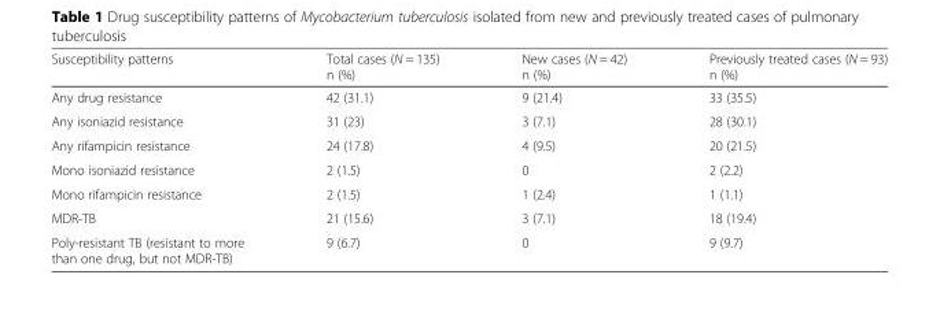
<table><thead><tr><td>Susceptibility patterns</td><td>Total cases (N = 135) n (%)</td><td>New cases (N = 42) n (%)</td><td>Previously treated cases (N = 93) n (%)</td></tr></thead><tbody><tr><td>Any drug resistance</td><td>42 (31.1)</td><td>9 (21.4)</td><td>33 (35.5)</td></tr><tr><td>Any isoniazid resistance</td><td>31 (23)</td><td>3 (7.1)</td><td>28 (30.1)</td></tr><tr><td>Any rifampicin resistance</td><td>24 (17.8)</td><td>4 (9.5)</td><td>20 (21.5)</td></tr><tr><td>Mono isoniazid resistance</td><td>2 (1.5)</td><td>0</td><td>2 (2.2)</td></tr><tr><td>Mono rifampicin resistance</td><td>2 (1.5)</td><td>1 (2.4)</td><td>1 (1.1)</td></tr><tr><td>MDR-TB</td><td>21 (15.6)</td><td>3 (7.1)</td><td>18 (19.4)</td></tr><tr><td>Poly-resistant TB (resistant to more than one drug, but not MDR-TB)</td><td>9 (6.7)</td><td>0</td><td>9 (9.7)</td></tr></tbody></table>